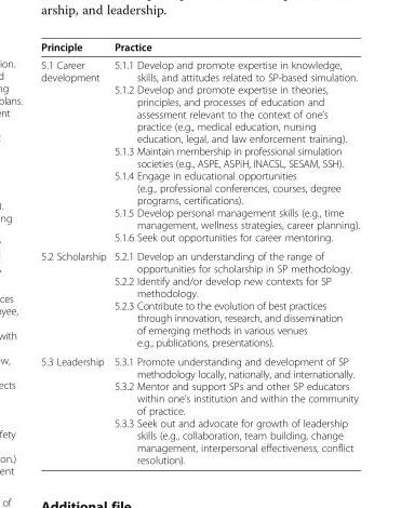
<table><thead><tr><td>Principle</td><td>Practice</td></tr></thead><tbody><tr><td>5.1 Career development</td><td>5.1.1 Develop and promote expertise in knowledge, skills, and attitudes related to SP-based simulation. 5.1.2 Develop and promote expertise in theories, principles, and processes of education and assessment relevant to the context of one’s practice (e.g., medical education, nursing education, legal, and law enforcement training). 5.1.3 Maintain membership in professional simulation societies (e.g., ASPE, ASPiH, INACSL, SESAM, SSH). 5.1.4 Engage in educational opportunities (e.g., professional conferences, courses, degree programs, certifications). 5.1.5 Develop personal management skills (e.g., time management, wellness strategies, career planning). 5.1.6 Seek out opportunities for career mentoring.</td></tr><tr><td>5.2 Scholarship</td><td>5.2.1 Develop an understanding of the range of opportunities for scholarship in SP methodology. 5.2.2 Identify and/or develop new contexts for SP methodology. 5.2.3 Contribute to the evolution of best practices through innovation, research, and dissemination of emerging methods in various venues e.g., publications, presentations).</td></tr><tr><td>5.3 Leadership</td><td>5.3.1 Promote understanding and development of SP methodology locally, nationally, and internationally. 5.3.2 Mentor and support SPs and other SP educators within one’s institution and within the community of practice. 5.3.3 Seek out and advocate for growth of leadership skills (e.g., collaboration, team building, change management, interpersonal effectiveness, conflict resolution).</td></tr></tbody></table>